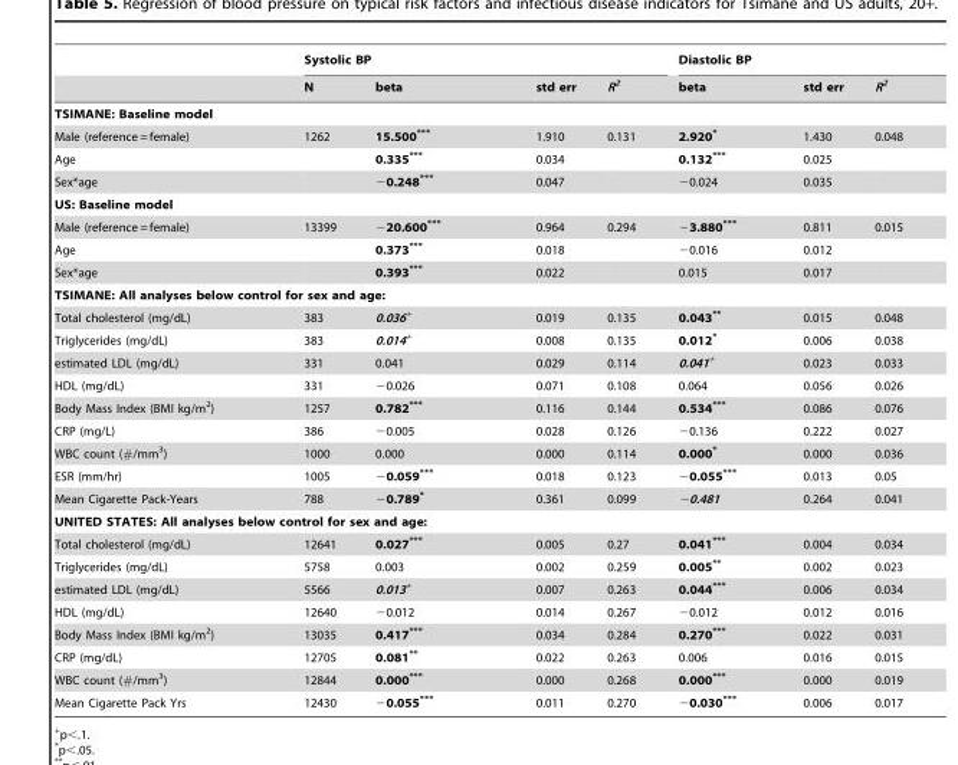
<table><thead><tr><td rowspan="2"></td><td colspan="4">Systolic BP</td><td colspan="3">Diastolic BP</td></tr><tr><td>N</td><td>beta</td><td>std err</td><td>R<sup>2</sup></td><td>beta</td><td>std err</td><td>R<sup>2</sup></td></tr></thead><tbody><tr><td colspan="8">TSIMANE: Baseline model</td></tr><tr><td>Male (reference = female)</td><td>1262</td><td>15.500***</td><td>1.910</td><td>0.131</td><td>2.920*</td><td>1.430</td><td>0.048</td></tr><tr><td>Age</td><td></td><td>0.335***</td><td>0.034</td><td></td><td>0.132***</td><td>0.025</td><td></td></tr><tr><td>Sex*age</td><td></td><td>−0.248***</td><td>0.047</td><td></td><td>−0.024</td><td>0.035</td><td></td></tr><tr><td colspan="8">US: Baseline model</td></tr><tr><td>Male (reference = female)</td><td>13399</td><td>−20.600***</td><td>0.964</td><td>0.294</td><td>−3.880***</td><td>0.811</td><td>0.015</td></tr><tr><td>Age</td><td></td><td>0.373***</td><td>0.018</td><td></td><td>−0.016</td><td>0.012</td><td></td></tr><tr><td>Sex*age</td><td></td><td>0.393***</td><td>0.022</td><td></td><td>0.015</td><td>0.017</td><td></td></tr><tr><td colspan="8">TSIMANE: All analyses below control for sex and age:</td></tr><tr><td>Total cholesterol (mg/dL)</td><td>383</td><td>0.036+</td><td>0.019</td><td>0.135</td><td>0.043**</td><td>0.015</td><td>0.048</td></tr><tr><td>Triglycerides (mg/dL)</td><td>383</td><td>0.014+</td><td>0.008</td><td>0.135</td><td>0.012*</td><td>0.006</td><td>0.038</td></tr><tr><td>estimated LDL (mg/dL)</td><td>331</td><td>0.041</td><td>0.029</td><td>0.114</td><td>0.041+</td><td>0.023</td><td>0.033</td></tr><tr><td>HDL (mg/dL)</td><td>331</td><td>−0.026</td><td>0.071</td><td>0.108</td><td>0.064</td><td>0.056</td><td>0.026</td></tr><tr><td>Body Mass Index (BMI kg/m<sup>2</sup>)</td><td>1257</td><td>0.782***</td><td>0.116</td><td>0.144</td><td>0.534***</td><td>0.086</td><td>0.076</td></tr><tr><td>CRP (mg/L)</td><td>386</td><td>−0.005</td><td>0.028</td><td>0.126</td><td>−0.136</td><td>0.222</td><td>0.027</td></tr><tr><td>WBC count (#/mm<sup>3</sup>)</td><td>1000</td><td>0.000</td><td>0.000</td><td>0.114</td><td>0.000*</td><td>0.000</td><td>0.036</td></tr><tr><td>ESR (mm/hr)</td><td>1005</td><td>−0.059***</td><td>0.018</td><td>0.123</td><td>−0.055***</td><td>0.013</td><td>0.05</td></tr><tr><td>Mean Cigarette Pack-Years</td><td>788</td><td>−0.789*</td><td>0.361</td><td>0.099</td><td>−0.481</td><td>0.264</td><td>0.041</td></tr><tr><td colspan="8">UNITED STATES: All analyses below control for sex and age:</td></tr><tr><td>Total cholesterol (mg/dL)</td><td>12641</td><td>0.027***</td><td>0.005</td><td>0.27</td><td>0.041***</td><td>0.004</td><td>0.034</td></tr><tr><td>Triglycerides (mg/dL)</td><td>5758</td><td>0.003</td><td>0.002</td><td>0.259</td><td>0.005**</td><td>0.002</td><td>0.023</td></tr><tr><td>estimated LDL (mg/dL)</td><td>5566</td><td>0.013+</td><td>0.007</td><td>0.263</td><td>0.044***</td><td>0.006</td><td>0.034</td></tr><tr><td>HDL (mg/dL)</td><td>12640</td><td>−0.012</td><td>0.014</td><td>0.267</td><td>−0.012</td><td>0.012</td><td>0.016</td></tr><tr><td>Body Mass Index (BMI kg/m<sup>2</sup>)</td><td>13035</td><td>0.417***</td><td>0.034</td><td>0.284</td><td>0.270***</td><td>0.022</td><td>0.031</td></tr><tr><td>CRP (mg/dL)</td><td>12705</td><td>0.081**</td><td>0.022</td><td>0.263</td><td>0.006</td><td>0.016</td><td>0.015</td></tr><tr><td>WBC count (#/mm<sup>3</sup>)</td><td>12844</td><td>0.000***</td><td>0.000</td><td>0.268</td><td>0.000***</td><td>0.000</td><td>0.019</td></tr><tr><td>Mean Cigarette Pack Yrs</td><td>12430</td><td>−0.055***</td><td>0.011</td><td>0.270</td><td>−0.030***</td><td>0.006</td><td>0.017</td></tr></tbody></table>